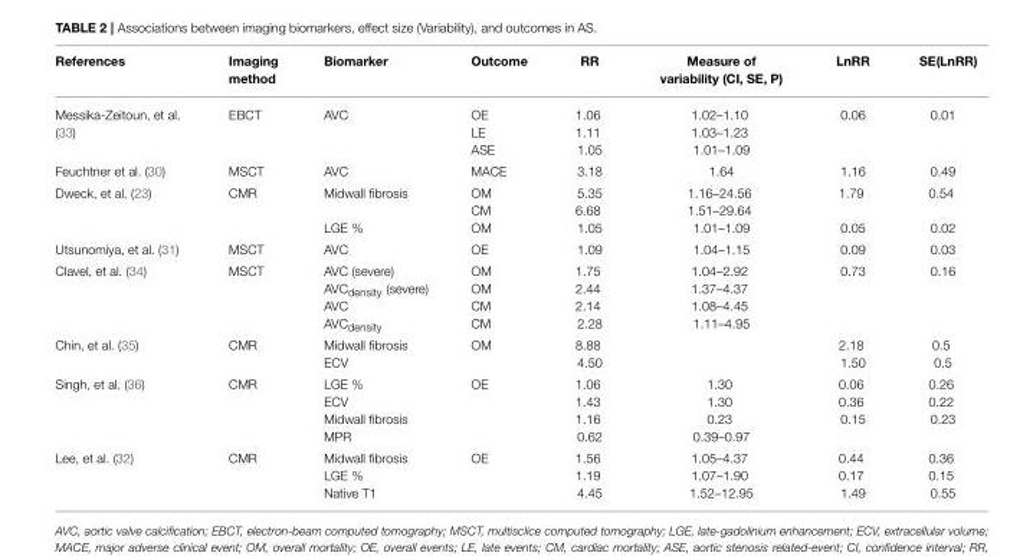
<table><thead><tr><td>References</td><td>Imaging method</td><td>Biomarker</td><td>Outcome</td><td>RR</td><td>Measure of variability (CI, SE, P)</td><td>LnRR</td><td>SE(LnRR)</td></tr></thead><tbody><tr><td>Messika-Zeitoun, et al. (33)</td><td>EBCT</td><td>AVC</td><td>OE LE ASE</td><td>1.06 1.11 1.05</td><td>1.02–1.10 1.03–1.23 1.01–1.09</td><td>0.06</td><td>0.01</td></tr><tr><td>Feuchtner et al. (30)</td><td>MSCT</td><td>AVC</td><td>MACE</td><td>3.18</td><td>1.64</td><td>1.16</td><td>0.49</td></tr><tr><td>Dweck, et al. (23)</td><td>CMR</td><td>Midwall fibrosis LGE %</td><td>OM CM OM</td><td>5.35 6.68 1.05</td><td>1.16–24.56 1.51–29.64 1.01–1.09</td><td>1.79 0.05</td><td>0.54 0.02</td></tr><tr><td>Utsunomiya, et al. (31)</td><td>MSCT</td><td>AVC</td><td>OE</td><td>1.09</td><td>1.04–1.15</td><td>0.09</td><td>0.03</td></tr><tr><td>Clavel, et al. (34)</td><td>MSCT</td><td>AVC (severe) AVC<sub>density</sub> (severe) AVC AVC<sub>density</sub></td><td>OM OM CM CM</td><td>1.75 2.44 2.14 2.28</td><td>1.04–2.92 1.37–4.37 1.08–4.45 1.11–4.95</td><td>0.73</td><td>0.16</td></tr><tr><td>Chin, et al. (35)</td><td>CMR</td><td>Midwall fibrosis ECV</td><td>OM</td><td>8.88 4.50</td><td></td><td>2.18 1.50</td><td>0.5 0.5</td></tr><tr><td>Singh, et al. (36)</td><td>CMR</td><td>LGE % ECV Midwall fibrosis MPR</td><td>OE</td><td>1.06 1.43 1.16 0.62</td><td>1.30 1.30 0.23 0.39–0.97</td><td>0.06 0.36 0.15</td><td>0.26 0.22 0.23</td></tr><tr><td>Lee, et al. (32)</td><td>CMR</td><td>Midwall fibrosis LGE % Native T1</td><td>OE</td><td>1.56 1.19 4.45</td><td>1.05–4.37 1.07–1.90 1.52–12.95</td><td>0.44 0.17 1.49</td><td>0.36 0.15 0.55</td></tr></tbody></table>